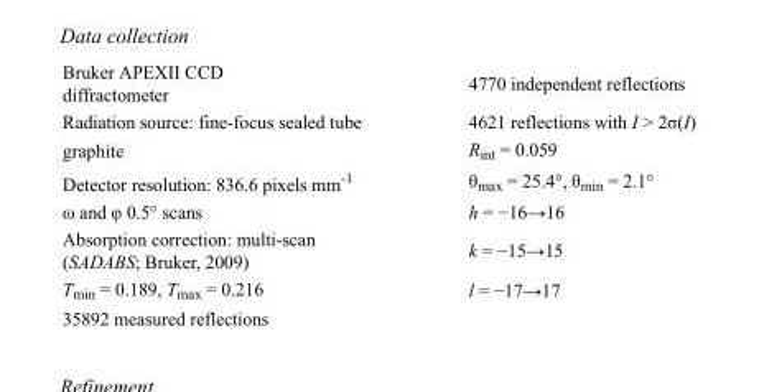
<table><tbody><tr><td>Bruker APEXII CCD diffractometer</td><td>4770 independent reflections</td></tr><tr><td>Radiation source: fine-focus sealed tube</td><td>4621 reflections with I &gt; 2σ(I)</td></tr><tr><td>graphite</td><td>R<sub>int</sub> = 0.059</td></tr><tr><td>Detector resolution: 836.6 pixels mm<sup>-1</sup></td><td>θ<sub>max</sub> = 25.4°, θ<sub>min</sub> = 2.1°</td></tr><tr><td>ω and φ 0.5° scans</td><td>h = −16→16</td></tr><tr><td>Absorption correction: multi-scan (SADABS; Bruker, 2009)</td><td>k = −15→15</td></tr><tr><td>T<sub>min</sub> = 0.189, T<sub>max</sub> = 0.216</td><td>l = −17→17</td></tr><tr><td>35892 measured reflections</td><td></td></tr></tbody></table>